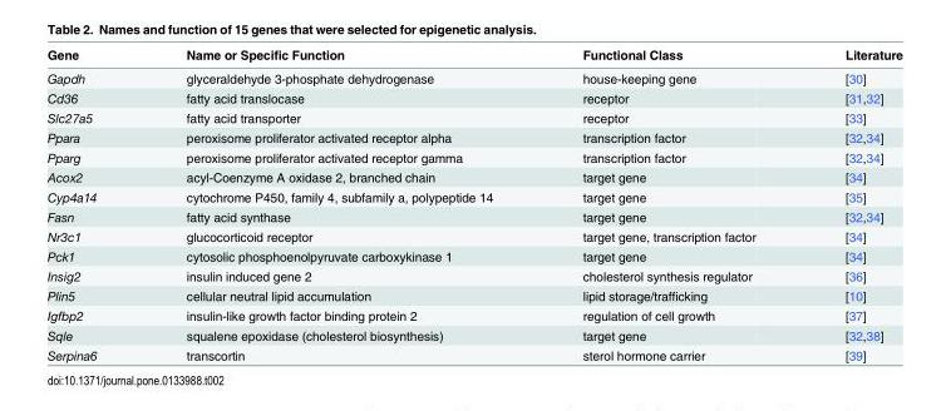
<table><thead><tr><td>Gene</td><td>Name or Specific Function</td><td>Functional Class</td><td>Literature</td></tr></thead><tbody><tr><td>Gapdh</td><td>glyceraldehyde 3-phosphate dehydrogenase</td><td>house-keeping gene</td><td>[30]</td></tr><tr><td>Cd36</td><td>fatty acid translocase</td><td>receptor</td><td>[31,32]</td></tr><tr><td>Slc27a5</td><td>fatty acid transporter</td><td>receptor</td><td>[33]</td></tr><tr><td>Ppara</td><td>peroxisome proliferator activated receptor alpha</td><td>transcription factor</td><td>[32,34]</td></tr><tr><td>Pparg</td><td>peroxisome proliferator activated receptor gamma</td><td>transcription factor</td><td>[32,34]</td></tr><tr><td>Acox2</td><td>acyl-Coenzyme A oxidase 2, branched chain</td><td>target gene</td><td>[34]</td></tr><tr><td>Cyp4a14</td><td>cytochrome P450, family 4, subfamily a, polypeptide 14</td><td>target gene</td><td>[35]</td></tr><tr><td>Fasn</td><td>fatty acid synthase</td><td>target gene</td><td>[32,34]</td></tr><tr><td>Nr3c1</td><td>glucocorticoid receptor</td><td>target gene, transcription factor</td><td>[34]</td></tr><tr><td>Pck1</td><td>cytosolic phosphoenolpyruvate carboxykinase 1</td><td>target gene</td><td>[34]</td></tr><tr><td>Insig2</td><td>insulin induced gene 2</td><td>cholesterol synthesis regulator</td><td>[36]</td></tr><tr><td>Plin5</td><td>cellular neutral lipid accumulation</td><td>lipid storage/trafficking</td><td>[10]</td></tr><tr><td>Igfbp2</td><td>insulin-like growth factor binding protein 2</td><td>regulation of cell growth</td><td>[37]</td></tr><tr><td>Sqle</td><td>squalene epoxidase (cholesterol biosynthesis)</td><td>target gene</td><td>[32,38]</td></tr><tr><td>Serpina6</td><td>transcortin</td><td>sterol hormone carrier</td><td>[39]</td></tr></tbody></table>